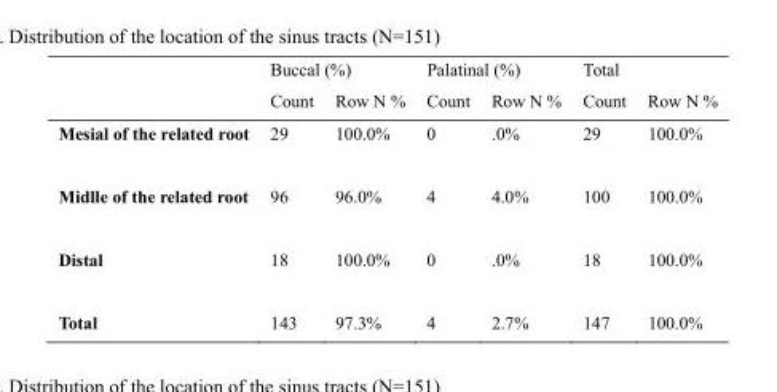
<table><thead><tr><td rowspan="2"></td><td colspan="2">Buccal (%)</td><td colspan="2">Palatinal (%)</td><td colspan="2">Total</td></tr><tr><td>Count</td><td>Row N %</td><td>Count</td><td>Row N %</td><td>Count</td><td>Row N %</td></tr></thead><tbody><tr><td>Mesial of the related root</td><td>29</td><td>100.0%</td><td>0</td><td>.0%</td><td>29</td><td>100.0%</td></tr><tr><td>Midlle of the related root</td><td>96</td><td>96.0%</td><td>4</td><td>4.0%</td><td>100</td><td>100.0%</td></tr><tr><td>Distal</td><td>18</td><td>100.0%</td><td>0</td><td>.0%</td><td>18</td><td>100.0%</td></tr><tr><td>Total</td><td>143</td><td>97.3%</td><td>4</td><td>2.7%</td><td>147</td><td>100.0%</td></tr></tbody></table>